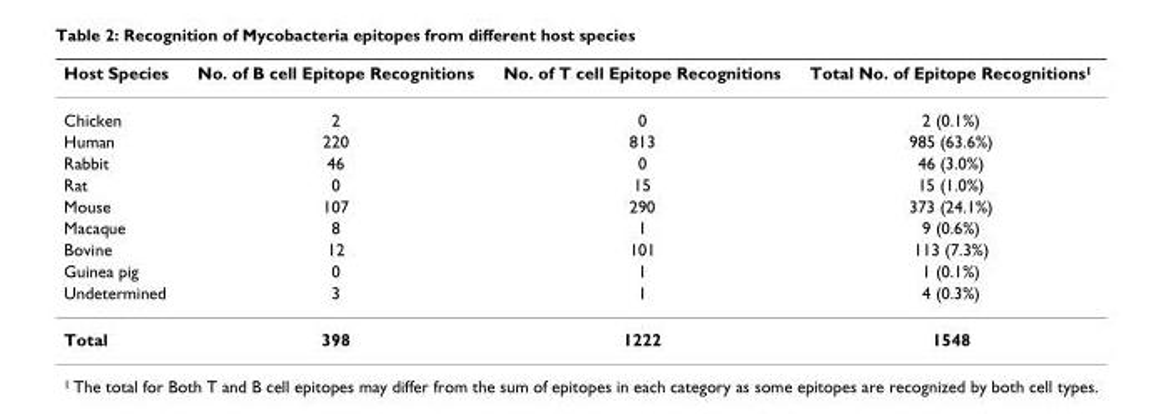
<table><thead><tr><td>Host Species</td><td>No. of B cell Epitope Recognitions</td><td>No. of T cell Epitope Recognitions</td><td>Total No. of Epitope Recognitions<sup>1</sup></td></tr></thead><tbody><tr><td>Chicken</td><td>2</td><td>0</td><td>2 (0.1%)</td></tr><tr><td>Human</td><td>220</td><td>813</td><td>985 (63.6%)</td></tr><tr><td>Rabbit</td><td>46</td><td>0</td><td>46 (3.0%)</td></tr><tr><td>Rat</td><td>0</td><td>15</td><td>15 (1.0%)</td></tr><tr><td>Mouse</td><td>107</td><td>290</td><td>373 (24.1%)</td></tr><tr><td>Macaque</td><td>8</td><td>1</td><td>9 (0.6%)</td></tr><tr><td>Bovine</td><td>12</td><td>101</td><td>113 (7.3%)</td></tr><tr><td>Guinea pig</td><td>0</td><td>1</td><td>1 (0.1%)</td></tr><tr><td>Undetermined</td><td>3</td><td>1</td><td>4 (0.3%)</td></tr><tr><td>Total</td><td>398</td><td>1222</td><td>1548</td></tr></tbody></table>